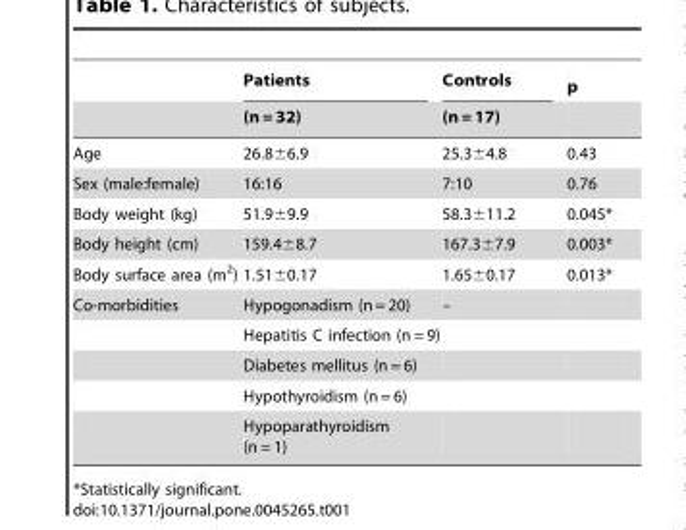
<table><thead><tr><td rowspan="2"></td><td rowspan="2">Patients (n = 32)</td><td rowspan="2">Controls (n = 17)</td><td rowspan="2">p</td></tr><tr></tr></thead><tbody><tr><td>Age</td><td>26.8±6.9</td><td>25.3±4.8</td><td>0.43</td></tr><tr><td>Sex (male:female)</td><td>16:16</td><td>7:10</td><td>0.76</td></tr><tr><td>Body weight (kg)</td><td>51.9±9.9</td><td>58.3±11.2</td><td>0.045*</td></tr><tr><td>Body height (cm)</td><td>159.4±8.7</td><td>167.3±7.9</td><td>0.003*</td></tr><tr><td>Body surface area (m<sup>2</sup>)</td><td>1.51±0.17</td><td>1.65±0.17</td><td>0.013*</td></tr><tr><td rowspan="5">Co-morbidities</td><td>Hypogonadism (n = 20)</td><td>–</td><td></td></tr><tr><td>Hepatitis C infection (n = 9)</td><td></td><td></td></tr><tr><td>Diabetes mellitus (n = 6)</td><td></td><td></td></tr><tr><td>Hypothyroidism (n = 6)</td><td></td><td></td></tr><tr><td>Hypoparathyroidism (n = 1)</td><td></td><td></td></tr></tbody></table>